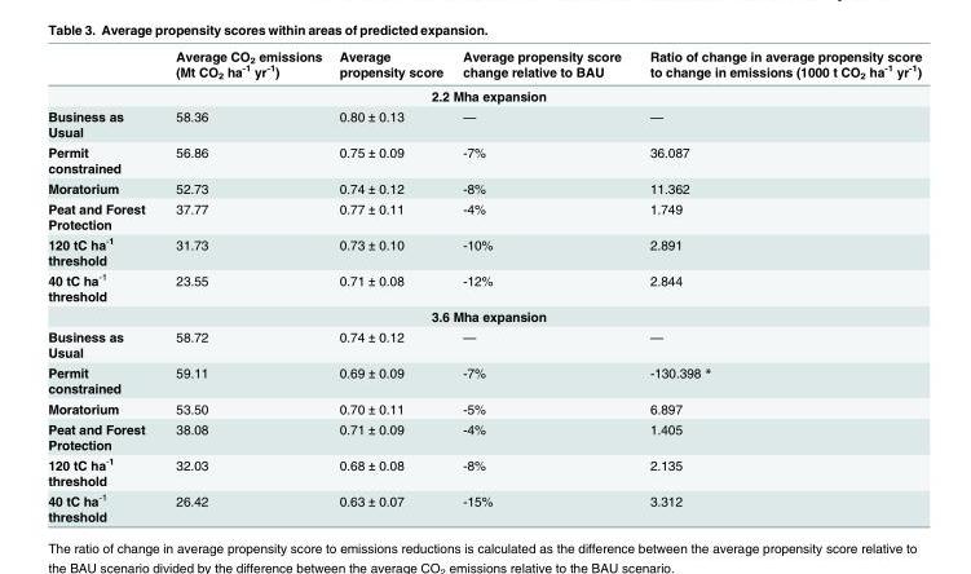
<table><thead><tr><td></td><td>Average CO<sub>2</sub> emissions (Mt CO<sub>2</sub> ha<sup>-1</sup> yr<sup>-1</sup>)</td><td>Average propensity score</td><td>Average propensity score change relative to BAU</td><td>Ratio of change in average propensity score to change in emissions (1000 t CO<sub>2</sub> ha<sup>-1</sup> yr<sup>-1</sup>)</td></tr></thead><tbody><tr><td colspan="5">2.2 Mha expansion</td></tr><tr><td>Business as Usual</td><td>58.36</td><td>0.80 ± 0.13</td><td>—</td><td>—</td></tr><tr><td>Permit constrained</td><td>56.86</td><td>0.75 ± 0.09</td><td>-7%</td><td>36.087</td></tr><tr><td>Moratorium</td><td>52.73</td><td>0.74 ± 0.12</td><td>-8%</td><td>11.362</td></tr><tr><td>Peat and Forest Protection</td><td>37.77</td><td>0.77 ± 0.11</td><td>-4%</td><td>1.749</td></tr><tr><td>120 tC ha<sup>-1</sup> threshold</td><td>31.73</td><td>0.73 ± 0.10</td><td>-10%</td><td>2.891</td></tr><tr><td>40 tC ha<sup>-1</sup> threshold</td><td>23.55</td><td>0.71 ± 0.08</td><td>-12%</td><td>2.844</td></tr><tr><td colspan="5">3.6 Mha expansion</td></tr><tr><td>Business as Usual</td><td>58.72</td><td>0.74 ± 0.12</td><td>—</td><td>—</td></tr><tr><td>Permit constrained</td><td>59.11</td><td>0.69 ± 0.09</td><td>-7%</td><td>-130.398 *</td></tr><tr><td>Moratorium</td><td>53.50</td><td>0.70 ± 0.11</td><td>-5%</td><td>6.897</td></tr><tr><td>Peat and Forest Protection</td><td>38.08</td><td>0.71 ± 0.09</td><td>-4%</td><td>1.405</td></tr><tr><td>120 tC ha<sup>-1</sup> threshold</td><td>32.03</td><td>0.68 ± 0.08</td><td>-8%</td><td>2.135</td></tr><tr><td>40 tC ha<sup>-1</sup> threshold</td><td>26.42</td><td>0.63 ± 0.07</td><td>-15%</td><td>3.312</td></tr></tbody></table>